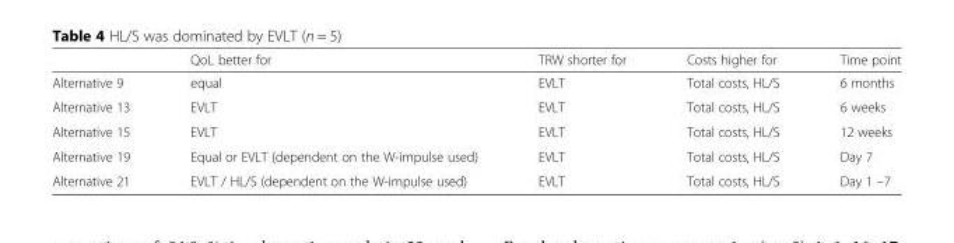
<table><thead><tr><td></td><td>QoL better for</td><td>TRW shorter for</td><td>Costs higher for</td><td>Time point</td></tr></thead><tbody><tr><td>Alternative 9</td><td>equal</td><td>EVLT</td><td>Total costs, HL/S</td><td>6 months</td></tr><tr><td>Alternative 13</td><td>EVLT</td><td>EVLT</td><td>Total costs, HL/S</td><td>6 weeks</td></tr><tr><td>Alternative 15</td><td>EVLT</td><td>EVLT</td><td>Total costs, HL/S</td><td>12 weeks</td></tr><tr><td>Alternative 19</td><td>Equal or EVLT (dependent on the W-impulse used)</td><td>EVLT</td><td>Total costs, HL/S</td><td>Day 7</td></tr><tr><td>Alternative 21</td><td>EVLT / HL/S (dependent on the W-impulse used)</td><td>EVLT</td><td>Total costs, HL/S</td><td>Day 1 –7</td></tr></tbody></table>